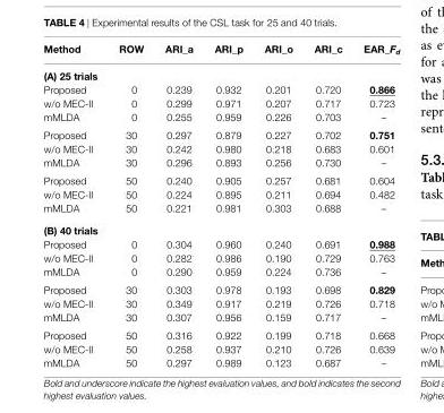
<table><thead><tr><td>Method</td><td>ROW</td><td>ARI_a</td><td>ARI_p</td><td>ARI_o</td><td>ARI_c</td><td>EAR_F<sub>d</sub></td></tr></thead><tbody><tr><td colspan="7">(A) 25 trials</td></tr><tr><td>Proposed</td><td>0</td><td>0.239</td><td>0.932</td><td>0.201</td><td>0.720</td><td>0.866</td></tr><tr><td>w/o MEC-II</td><td>0</td><td>0.299</td><td>0.971</td><td>0.207</td><td>0.717</td><td>0.723</td></tr><tr><td>mMLDA</td><td>0</td><td>0.255</td><td>0.959</td><td>0.226</td><td>0.703</td><td>–</td></tr><tr><td>Proposed</td><td>30</td><td>0.297</td><td>0.879</td><td>0.227</td><td>0.702</td><td>0.751</td></tr><tr><td>w/o MEC-II</td><td>30</td><td>0.242</td><td>0.980</td><td>0.218</td><td>0.683</td><td>0.601</td></tr><tr><td>mMLDA</td><td>30</td><td>0.296</td><td>0.893</td><td>0.256</td><td>0.730</td><td>–</td></tr><tr><td>Proposed</td><td>50</td><td>0.240</td><td>0.905</td><td>0.257</td><td>0.681</td><td>0.604</td></tr><tr><td>w/o MEC-II</td><td>50</td><td>0.224</td><td>0.895</td><td>0.211</td><td>0.694</td><td>0.482</td></tr><tr><td>mMLDA</td><td>50</td><td>0.221</td><td>0.981</td><td>0.303</td><td>0.688</td><td>–</td></tr><tr><td colspan="7">(B) 40 trials</td></tr><tr><td>Proposed</td><td>0</td><td>0.304</td><td>0.960</td><td>0.240</td><td>0.691</td><td>0.988</td></tr><tr><td>w/o MEC-II</td><td>0</td><td>0.282</td><td>0.986</td><td>0.190</td><td>0.729</td><td>0.763</td></tr><tr><td>mMLDA</td><td>0</td><td>0.290</td><td>0.959</td><td>0.224</td><td>0.736</td><td>–</td></tr><tr><td>Proposed</td><td>30</td><td>0.303</td><td>0.978</td><td>0.193</td><td>0.698</td><td>0.829</td></tr><tr><td>w/o MEC-II</td><td>30</td><td>0.349</td><td>0.917</td><td>0.219</td><td>0.726</td><td>0.718</td></tr><tr><td>mMLDA</td><td>30</td><td>0.307</td><td>0.956</td><td>0.159</td><td>0.717</td><td>–</td></tr><tr><td>Proposed</td><td>50</td><td>0.316</td><td>0.922</td><td>0.199</td><td>0.718</td><td>0.668</td></tr><tr><td>w/o MEC-II</td><td>50</td><td>0.258</td><td>0.937</td><td>0.210</td><td>0.726</td><td>0.639</td></tr><tr><td>mMLDA</td><td>50</td><td>0.297</td><td>0.989</td><td>0.123</td><td>0.687</td><td>–</td></tr></tbody></table>